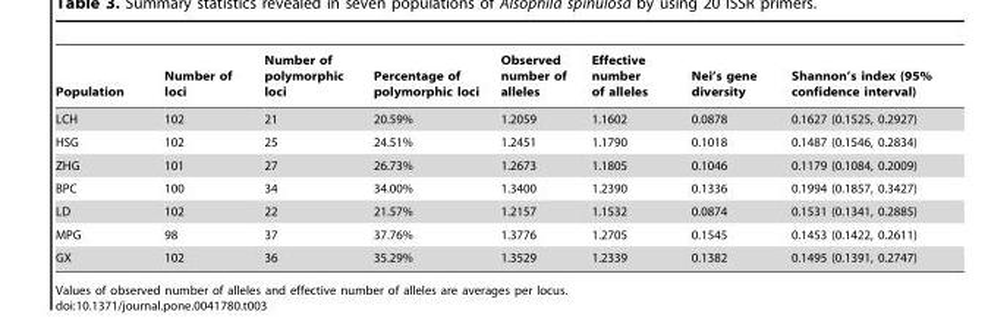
<table><thead><tr><td>Population</td><td>Number of loci</td><td>Number of polymorphic loci</td><td>Percentage of polymorphic loci</td><td>Observed number of alleles</td><td>Effective number of alleles</td><td>Nei’s gene diversity</td><td>Shannon’s index (95% confidence interval)</td></tr></thead><tbody><tr><td>LCH</td><td>102</td><td>21</td><td>20.59%</td><td>1.2059</td><td>1.1602</td><td>0.0878</td><td>0.1627 (0.1525, 0.2927)</td></tr><tr><td>HSG</td><td>102</td><td>25</td><td>24.51%</td><td>1.2451</td><td>1.1790</td><td>0.1018</td><td>0.1487 (0.1546, 0.2834)</td></tr><tr><td>ZHG</td><td>101</td><td>27</td><td>26.73%</td><td>1.2673</td><td>1.1805</td><td>0.1046</td><td>0.1179 (0.1084, 0.2009)</td></tr><tr><td>BPC</td><td>100</td><td>34</td><td>34.00%</td><td>1.3400</td><td>1.2390</td><td>0.1336</td><td>0.1994 (0.1857, 0.3427)</td></tr><tr><td>LD</td><td>102</td><td>22</td><td>21.57%</td><td>1.2157</td><td>1.1532</td><td>0.0874</td><td>0.1531 (0.1341, 0.2885)</td></tr><tr><td>MPG</td><td>98</td><td>37</td><td>37.76%</td><td>1.3776</td><td>1.2705</td><td>0.1545</td><td>0.1453 (0.1422, 0.2611)</td></tr><tr><td>GX</td><td>102</td><td>36</td><td>35.29%</td><td>1.3529</td><td>1.2339</td><td>0.1382</td><td>0.1495 (0.1391, 0.2747)</td></tr></tbody></table>